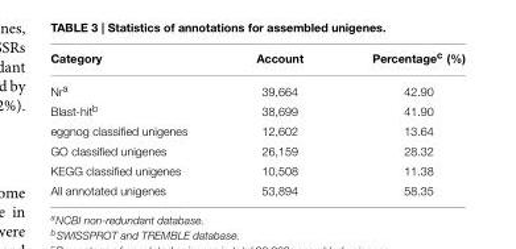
<table><thead><tr><td>Category</td><td>Account</td><td>Percentage<sup>c</sup> (%)</td></tr></thead><tbody><tr><td>Nr<sup>a</sup></td><td>39,664</td><td>42.90</td></tr><tr><td>Blast-hit<sup>b</sup></td><td>38,699</td><td>41.90</td></tr><tr><td>eggnog classified unigenes</td><td>12,602</td><td>13.64</td></tr><tr><td>GO classified unigenes</td><td>26,159</td><td>28.32</td></tr><tr><td>KEGG classified unigenes</td><td>10,508</td><td>11.38</td></tr><tr><td>All annotated unigenes</td><td>53,894</td><td>58.35</td></tr></tbody></table>